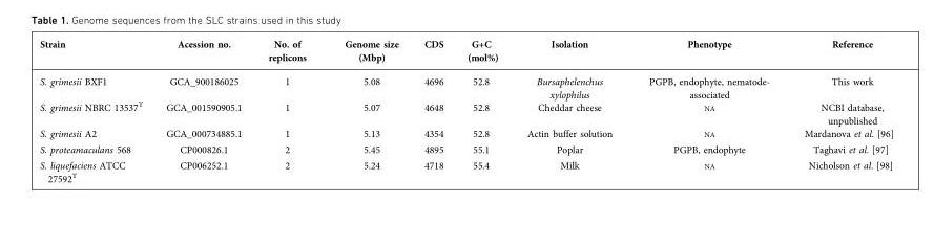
<table><thead><tr><td>Strain</td><td>Acession no.</td><td>No. of replicons</td><td>Genome size (Mbp)</td><td>CDS</td><td>G+C (mol%)</td><td>Isolation</td><td>Phenotype</td><td>Reference</td></tr></thead><tbody><tr><td>S. grimesii BXF1</td><td>GCA_900186025</td><td>1</td><td>5.08</td><td>4696</td><td>52.8</td><td>Bursaphelenchus xylophilus</td><td>PGPB, endophyte, nematode- associated</td><td>This work</td></tr><tr><td>S. grimesii NBRC 13537<sup>T</sup></td><td>GCA_001590905.1</td><td>1</td><td>5.07</td><td>4648</td><td>52.8</td><td>Cheddar cheese</td><td>NA</td><td>NCBI database, unpublished</td></tr><tr><td>S. grimesii A2</td><td>GCA_000734885.1</td><td>1</td><td>5.13</td><td>4354</td><td>52.8</td><td>Actin buffer solution</td><td>NA</td><td>Mardanova et al. [96]</td></tr><tr><td>S. proteamaculans 568</td><td>CP000826.1</td><td>2</td><td>5.45</td><td>4895</td><td>55.1</td><td>Poplar</td><td>PGPB, endophyte</td><td>Taghavi et al. [97]</td></tr><tr><td>S. liquefaciens ATCC 27592<sup>T</sup></td><td>CP006252.1</td><td>2</td><td>5.24</td><td>4718</td><td>55.4</td><td>Milk</td><td>NA</td><td>Nicholson et al. [98]</td></tr></tbody></table>